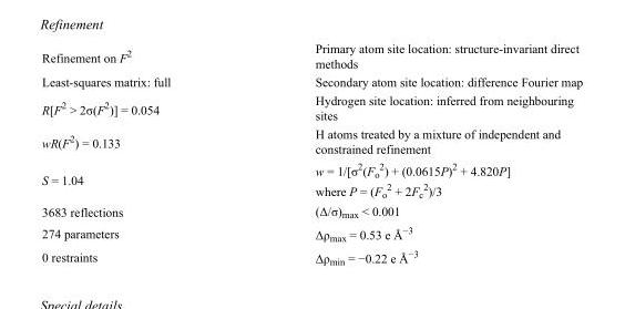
<table><tbody><tr><td>Refinement on F<sup>2</sup></td><td>Primary atom site location: structure-invariant direct methods</td></tr><tr><td>Least-squares matrix: full</td><td>Secondary atom site location: difference Fourier map</td></tr><tr><td>R[F<sup>2</sup> &gt; 2σ(F<sup>2</sup>)] = 0.054</td><td>Hydrogen site location: inferred from neighbouring sites</td></tr><tr><td>wR(F<sup>2</sup>) = 0.133</td><td>H atoms treated by a mixture of independent and constrained refinement</td></tr><tr><td>S = 1.04</td><td>w = 1/[σ<sup>2</sup>(F<sub>o</sub> <sup>2</sup>) + (0.0615P)<sup>2</sup> + 4.820P] where P = (F<sub>o</sub> <sup>2</sup> + 2F<sub>c</sub> <sup>2</sup>)/3</td></tr><tr><td>3683 reflections</td><td>(Δ/σ)<sub>max</sub> &lt; 0.001</td></tr><tr><td>274 parameters</td><td>Δρ<sub>max</sub> = 0.53 e Å<sup>−3</sup></td></tr><tr><td>0 restraints</td><td>Δρ<sub>min</sub> = −0.22 e Å<sup>−3</sup></td></tr></tbody></table>